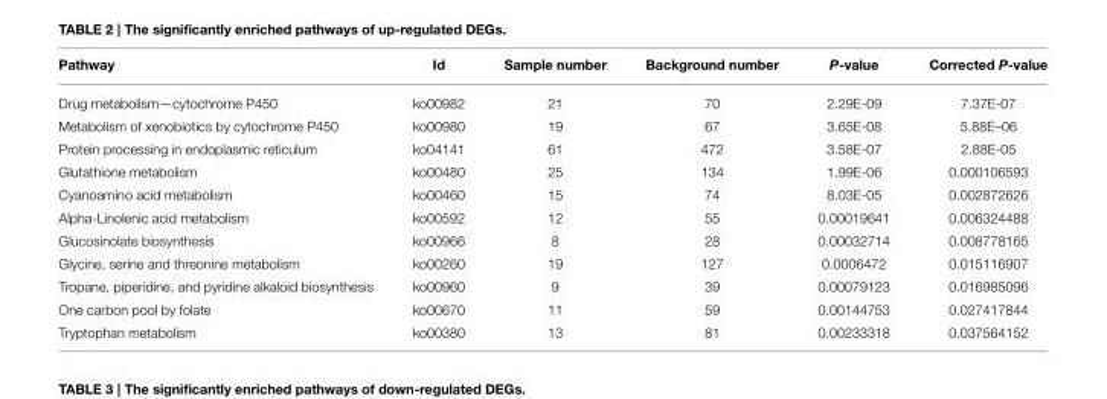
<table><thead><tr><td>Pathway</td><td>Id</td><td>Sample number</td><td>Background number</td><td>P-value</td><td>Corrected P-value</td></tr></thead><tbody><tr><td>Drug metabolism—cytochrome P450</td><td>ko00982</td><td>21</td><td>70</td><td>2.29E-09</td><td>7.37E-07</td></tr><tr><td>Metabolism of xenobiotics by cytochrome P450</td><td>ko00980</td><td>19</td><td>67</td><td>3.65E-08</td><td>5.88E–06</td></tr><tr><td>Protein processing in endoplasmic reticulum</td><td>ko04141</td><td>61</td><td>472</td><td>3.58E-07</td><td>2.88E-05</td></tr><tr><td>Glutathione metabolism</td><td>ko00480</td><td>25</td><td>134</td><td>1.99E-06</td><td>0.000106593</td></tr><tr><td>Cyanoamino acid metabolism</td><td>ko00460</td><td>15</td><td>74</td><td>8.03E-05</td><td>0.002872626</td></tr><tr><td>Alpha-Linolenic acid metabolism</td><td>ko00592</td><td>12</td><td>55</td><td>0.00019641</td><td>0.006324488</td></tr><tr><td>Glucosinolate biosynthesis</td><td>ko00966</td><td>8</td><td>28</td><td>0.00032714</td><td>0.008778165</td></tr><tr><td>Glycine, serine and threonine metabolism</td><td>ko00260</td><td>19</td><td>127</td><td>0.0006472</td><td>0.015116907</td></tr><tr><td>Tropane, piperidine, and pyridine alkaloid biosynthesis</td><td>ko00960</td><td>9</td><td>39</td><td>0.00079123</td><td>0.016985096</td></tr><tr><td>One carbon pool by folate</td><td>ko00670</td><td>11</td><td>59</td><td>0.00144753</td><td>0.027417844</td></tr><tr><td>Tryptophan metabolism</td><td>ko00380</td><td>13</td><td>81</td><td>0.00233318</td><td>0.037564152</td></tr></tbody></table>